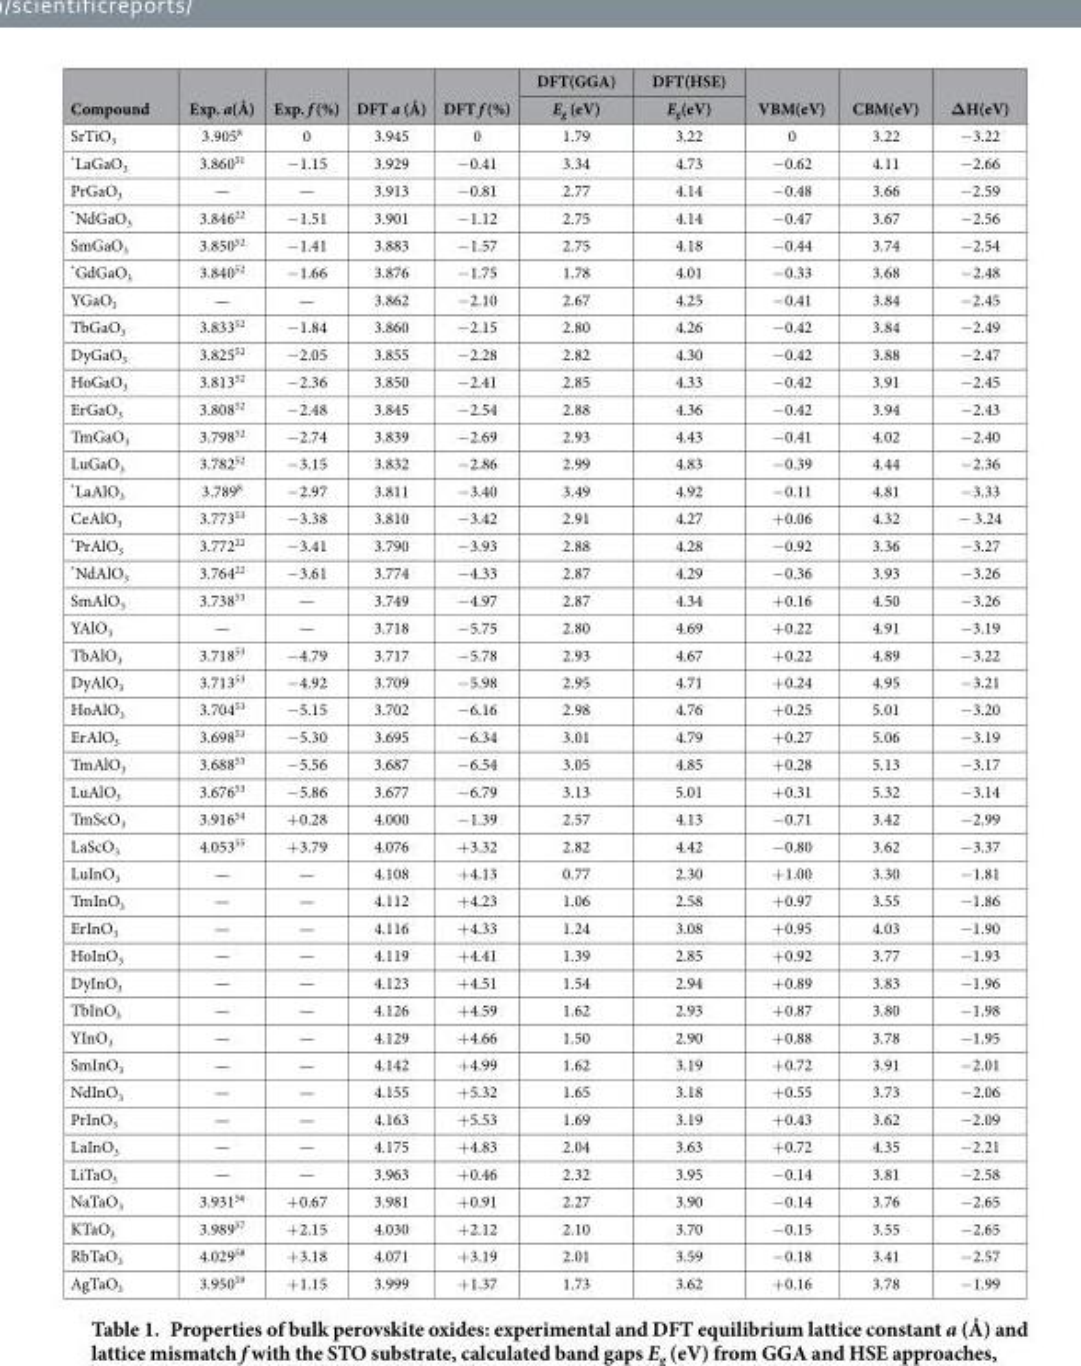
<table><thead><tr><td rowspan="2">Compound</td><td rowspan="2">Exp. a(Å)</td><td rowspan="2">Exp. f (%)</td><td rowspan="2">DFT a (Å)</td><td rowspan="2">DFT f (%)</td><td rowspan="2">DFT(GGA) E<sub>g</sub> (eV)</td><td rowspan="2">DFT(HSE) E<sub>g</sub>(eV)</td><td rowspan="2">VBM(eV)</td><td rowspan="2">CBM(eV)</td><td rowspan="2">ΔH(eV)</td></tr><tr></tr></thead><tbody><tr><td>SrTiO<sub>3</sub></td><td>3.905<sup>8</sup></td><td>0</td><td>3.945</td><td>0</td><td>1.79</td><td>3.22</td><td>0</td><td>3.22</td><td>− 3.22</td></tr><tr><td>*LaGaO<sub>3</sub></td><td>3.860<sup>51</sup></td><td>− 1.15</td><td>3.929</td><td>− 0.41</td><td>3.34</td><td>4.73</td><td>− 0.62</td><td>4.11</td><td>− 2.66</td></tr><tr><td>PrGaO<sub>3</sub></td><td>—</td><td>—</td><td>3.913</td><td>− 0.81</td><td>2.77</td><td>4.14</td><td>− 0.48</td><td>3.66</td><td>− 2.59</td></tr><tr><td>*NdGaO<sub>3</sub></td><td>3.846<sup>22</sup></td><td>− 1.51</td><td>3.901</td><td>− 1.12</td><td>2.75</td><td>4.14</td><td>− 0.47</td><td>3.67</td><td>− 2.56</td></tr><tr><td>SmGaO<sub>3</sub></td><td>3.850<sup>52</sup></td><td>− 1.41</td><td>3.883</td><td>− 1.57</td><td>2.75</td><td>4.18</td><td>− 0.44</td><td>3.74</td><td>− 2.54</td></tr><tr><td>*GdGaO<sub>3</sub></td><td>3.840<sup>52</sup></td><td>− 1.66</td><td>3.876</td><td>− 1.75</td><td>1.78</td><td>4.01</td><td>− 0.33</td><td>3.68</td><td>− 2.48</td></tr><tr><td>YGaO<sub>3</sub></td><td>—</td><td>—</td><td>3.862</td><td>− 2.10</td><td>2.67</td><td>4.25</td><td>− 0.41</td><td>3.84</td><td>− 2.45</td></tr><tr><td>TbGaO<sub>3</sub></td><td>3.833<sup>52</sup></td><td>− 1.84</td><td>3.860</td><td>− 2.15</td><td>2.80</td><td>4.26</td><td>− 0.42</td><td>3.84</td><td>− 2.49</td></tr><tr><td>DyGaO<sub>3</sub></td><td>3.825<sup>52</sup></td><td>− 2.05</td><td>3.855</td><td>− 2.28</td><td>2.82</td><td>4.30</td><td>− 0.42</td><td>3.88</td><td>− 2.47</td></tr><tr><td>HoGaO<sub>3</sub></td><td>3.813<sup>52</sup></td><td>− 2.36</td><td>3.850</td><td>− 2.41</td><td>2.85</td><td>4.33</td><td>− 0.42</td><td>3.91</td><td>− 2.45</td></tr><tr><td>ErGaO<sub>3</sub></td><td>3.808<sup>52</sup></td><td>− 2.48</td><td>3.845</td><td>− 2.54</td><td>2.88</td><td>4.36</td><td>− 0.42</td><td>3.94</td><td>− 2.43</td></tr><tr><td>TmGaO<sub>3</sub></td><td>3.798<sup>52</sup></td><td>− 2.74</td><td>3.839</td><td>− 2.69</td><td>2.93</td><td>4.43</td><td>− 0.41</td><td>4.02</td><td>− 2.40</td></tr><tr><td>LuGaO<sub>3</sub></td><td>3.782<sup>52</sup></td><td>− 3.15</td><td>3.832</td><td>− 2.86</td><td>2.99</td><td>4.83</td><td>− 0.39</td><td>4.44</td><td>− 2.36</td></tr><tr><td>*LaAlO<sub>3</sub></td><td>3.789<sup>8</sup></td><td>− 2.97</td><td>3.811</td><td>− 3.40</td><td>3.49</td><td>4.92</td><td>− 0.11</td><td>4.81</td><td>− 3.33</td></tr><tr><td>CeAlO<sub>3</sub></td><td>3.773<sup>53</sup></td><td>− 3.38</td><td>3.810</td><td>− 3.42</td><td>2.91</td><td>4.27</td><td>+ 0.06</td><td>4.32</td><td>− 3.24</td></tr><tr><td>*PrAlO<sub>3</sub></td><td>3.772<sup>22</sup></td><td>− 3.41</td><td>3.790</td><td>− 3.93</td><td>2.88</td><td>4.28</td><td>− 0.92</td><td>3.36</td><td>− 3.27</td></tr><tr><td>*NdAlO<sub>3</sub></td><td>3.764<sup>22</sup></td><td>− 3.61</td><td>3.774</td><td>− 4.33</td><td>2.87</td><td>4.29</td><td>− 0.36</td><td>3.93</td><td>− 3.26</td></tr><tr><td>SmAlO<sub>3</sub></td><td>3.738<sup>53</sup></td><td>—</td><td>3.749</td><td>− 4.97</td><td>2.87</td><td>4.34</td><td>+ 0.16</td><td>4.50</td><td>− 3.26</td></tr><tr><td>YAlO<sub>3</sub></td><td>—</td><td>—</td><td>3.718</td><td>− 5.75</td><td>2.80</td><td>4.69</td><td>+ 0.22</td><td>4.91</td><td>− 3.19</td></tr><tr><td>TbAlO<sub>3</sub></td><td>3.718<sup>53</sup></td><td>− 4.79</td><td>3.717</td><td>− 5.78</td><td>2.93</td><td>4.67</td><td>+ 0.22</td><td>4.89</td><td>− 3.22</td></tr><tr><td>DyAlO<sub>3</sub></td><td>3.713<sup>53</sup></td><td>− 4.92</td><td>3.709</td><td>− 5.98</td><td>2.95</td><td>4.71</td><td>+ 0.24</td><td>4.95</td><td>− 3.21</td></tr><tr><td>HoAlO<sub>3</sub></td><td>3.704<sup>53</sup></td><td>− 5.15</td><td>3.702</td><td>− 6.16</td><td>2.98</td><td>4.76</td><td>+ 0.25</td><td>5.01</td><td>− 3.20</td></tr><tr><td>ErAlO<sub>3</sub></td><td>3.698<sup>53</sup></td><td>− 5.30</td><td>3.695</td><td>− 6.34</td><td>3.01</td><td>4.79</td><td>+ 0.27</td><td>5.06</td><td>− 3.19</td></tr><tr><td>TmAlO<sub>3</sub></td><td>3.688<sup>53</sup></td><td>− 5.56</td><td>3.687</td><td>− 6.54</td><td>3.05</td><td>4.85</td><td>+ 0.28</td><td>5.13</td><td>− 3.17</td></tr><tr><td>LuAlO<sub>3</sub></td><td>3.676<sup>53</sup></td><td>− 5.86</td><td>3.677</td><td>− 6.79</td><td>3.13</td><td>5.01</td><td>+ 0.31</td><td>5.32</td><td>− 3.14</td></tr><tr><td>TmScO<sub>3</sub></td><td>3.916<sup>54</sup></td><td>+ 0.28</td><td>4.000</td><td>− 1.39</td><td>2.57</td><td>4.13</td><td>− 0.71</td><td>3.42</td><td>− 2.99</td></tr><tr><td>LaScO<sub>3</sub></td><td>4.053<sup>55</sup></td><td>+ 3.79</td><td>4.076</td><td>+ 3.32</td><td>2.82</td><td>4.42</td><td>− 0.80</td><td>3.62</td><td>− 3.37</td></tr><tr><td>LuInO<sub>3</sub></td><td>—</td><td>—</td><td>4.108</td><td>+ 4.13</td><td>0.77</td><td>2.30</td><td>+ 1.00</td><td>3.30</td><td>− 1.81</td></tr><tr><td>TmInO<sub>3</sub></td><td>—</td><td>—</td><td>4.112</td><td>+ 4.23</td><td>1.06</td><td>2.58</td><td>+ 0.97</td><td>3.55</td><td>− 1.86</td></tr><tr><td>ErInO<sub>3</sub></td><td>—</td><td>—</td><td>4.116</td><td>+ 4.33</td><td>1.24</td><td>3.08</td><td>+ 0.95</td><td>4.03</td><td>− 1.90</td></tr><tr><td>HoInO<sub>3</sub></td><td>—</td><td>—</td><td>4.119</td><td>+ 4.41</td><td>1.39</td><td>2.85</td><td>+ 0.92</td><td>3.77</td><td>− 1.93</td></tr><tr><td>DyInO<sub>3</sub></td><td>—</td><td>—</td><td>4.123</td><td>+ 4.51</td><td>1.54</td><td>2.94</td><td>+ 0.89</td><td>3.83</td><td>− 1.96</td></tr><tr><td>TbInO<sub>3</sub></td><td>—</td><td>—</td><td>4.126</td><td>+ 4.59</td><td>1.62</td><td>2.93</td><td>+ 0.87</td><td>3.80</td><td>− 1.98</td></tr><tr><td>YInO<sub>3</sub></td><td>—</td><td>—</td><td>4.129</td><td>+ 4.66</td><td>1.50</td><td>2.90</td><td>+ 0.88</td><td>3.78</td><td>− 1.95</td></tr><tr><td>SmInO<sub>3</sub></td><td>—</td><td>—</td><td>4.142</td><td>+ 4.99</td><td>1.62</td><td>3.19</td><td>+ 0.72</td><td>3.91</td><td>− 2.01</td></tr><tr><td>NdInO<sub>3</sub></td><td>—</td><td>—</td><td>4.155</td><td>+ 5.32</td><td>1.65</td><td>3.18</td><td>+ 0.55</td><td>3.73</td><td>− 2.06</td></tr><tr><td>PrInO<sub>3</sub></td><td>—</td><td>—</td><td>4.163</td><td>+ 5.53</td><td>1.69</td><td>3.19</td><td>+ 0.43</td><td>3.62</td><td>− 2.09</td></tr><tr><td>LaInO<sub>3</sub></td><td>—</td><td>—</td><td>4.175</td><td>+ 4.83</td><td>2.04</td><td>3.63</td><td>+ 0.72</td><td>4.35</td><td>− 2.21</td></tr><tr><td>LiTaO<sub>3</sub></td><td>—</td><td>—</td><td>3.963</td><td>+ 0.46</td><td>2.32</td><td>3.95</td><td>− 0.14</td><td>3.81</td><td>− 2.58</td></tr><tr><td>NaTaO<sub>3</sub></td><td>3.931<sup>56</sup></td><td>+ 0.67</td><td>3.981</td><td>+ 0.91</td><td>2.27</td><td>3.90</td><td>− 0.14</td><td>3.76</td><td>− 2.65</td></tr><tr><td>KTaO<sub>3</sub></td><td>3.989<sup>57</sup></td><td>+ 2.15</td><td>4.030</td><td>+ 2.12</td><td>2.10</td><td>3.70</td><td>− 0.15</td><td>3.55</td><td>− 2.65</td></tr><tr><td>RbTaO<sub>3</sub></td><td>4.029<sup>58</sup></td><td>+ 3.18</td><td>4.071</td><td>+ 3.19</td><td>2.01</td><td>3.59</td><td>− 0.18</td><td>3.41</td><td>− 2.57</td></tr><tr><td>AgTaO<sub>3</sub></td><td>3.950<sup>59</sup></td><td>+ 1.15</td><td>3.999</td><td>+ 1.37</td><td>1.73</td><td>3.62</td><td>+ 0.16</td><td>3.78</td><td>− 1.99</td></tr></tbody></table>